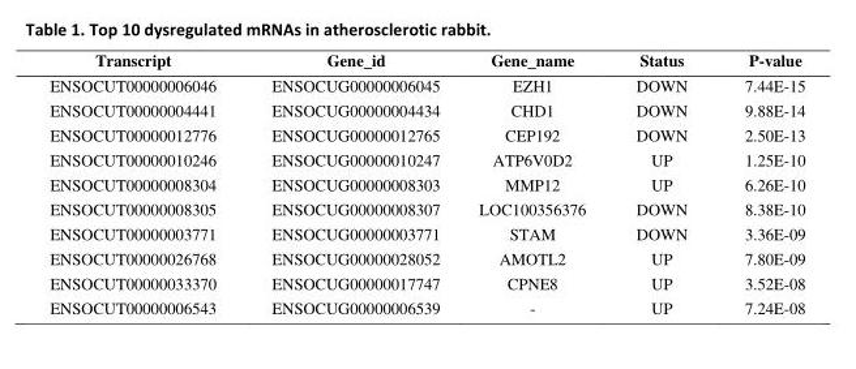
<table><tbody><tr><td>Transcript</td><td>Gene_id</td><td>Gene_name</td><td>Status</td><td>P-value</td></tr><tr><td>ENSOCUT00000006046</td><td>ENSOCUG00000006045</td><td>EZH1</td><td>DOWN</td><td>7.44E-15</td></tr><tr><td>ENSOCUT00000004441</td><td>ENSOCUG00000004434</td><td>CHD1</td><td>DOWN</td><td>9.88E-14</td></tr><tr><td>ENSOCUT00000012776</td><td>ENSOCUG00000012765</td><td>CEP192</td><td>DOWN</td><td>2.50E-13</td></tr><tr><td>ENSOCUT00000010246</td><td>ENSOCUG00000010247</td><td>ATP6V0D2</td><td>UP</td><td>1.25E-10</td></tr><tr><td>ENSOCUT00000008304</td><td>ENSOCUG00000008303</td><td>MMP12</td><td>UP</td><td>6.26E-10</td></tr><tr><td>ENSOCUT00000008305</td><td>ENSOCUG00000008307</td><td>LOC100356376</td><td>DOWN</td><td>8.38E-10</td></tr><tr><td>ENSOCUT00000003771</td><td>ENSOCUG00000003771</td><td>STAM</td><td>DOWN</td><td>3.36E-09</td></tr><tr><td>ENSOCUT00000026768</td><td>ENSOCUG00000028052</td><td>AMOTL2</td><td>UP</td><td>7.80E-09</td></tr><tr><td>ENSOCUT00000033370</td><td>ENSOCUG00000017747</td><td>CPNE8</td><td>UP</td><td>3.52E-08</td></tr><tr><td>ENSOCUT00000006543</td><td>ENSOCUG00000006539</td><td>-</td><td>UP</td><td>7.24E-08</td></tr></tbody></table>